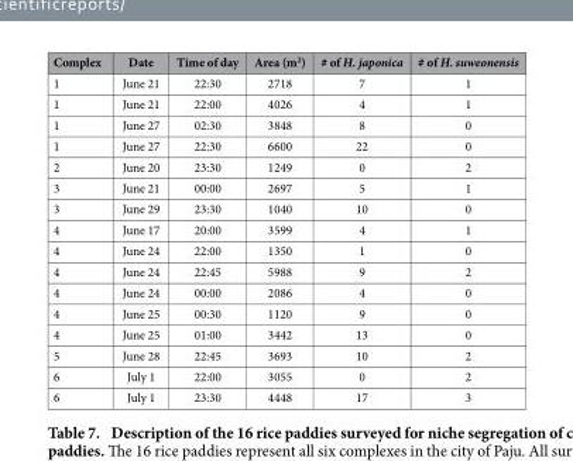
<table><thead><tr><td>Complex</td><td>Date</td><td>Time of day</td><td>Area (m<sup>2</sup>)</td><td># of H. japonica</td><td># of H. suweonensis</td></tr></thead><tbody><tr><td>1</td><td>June 21</td><td>22:30</td><td>2718</td><td>7</td><td>1</td></tr><tr><td>1</td><td>June 21</td><td>22:00</td><td>4026</td><td>4</td><td>1</td></tr><tr><td>1</td><td>June 27</td><td>02:30</td><td>3848</td><td>8</td><td>0</td></tr><tr><td>1</td><td>June 27</td><td>22:30</td><td>6600</td><td>22</td><td>0</td></tr><tr><td>2</td><td>June 20</td><td>23:30</td><td>1249</td><td>0</td><td>2</td></tr><tr><td>3</td><td>June 21</td><td>00:00</td><td>2697</td><td>5</td><td>1</td></tr><tr><td>3</td><td>June 29</td><td>23:30</td><td>1040</td><td>10</td><td>0</td></tr><tr><td>4</td><td>June 17</td><td>20:00</td><td>3599</td><td>4</td><td>1</td></tr><tr><td>4</td><td>June 24</td><td>22:00</td><td>1350</td><td>1</td><td>0</td></tr><tr><td>4</td><td>June 24</td><td>22:45</td><td>5988</td><td>9</td><td>2</td></tr><tr><td>4</td><td>June 24</td><td>00:00</td><td>2086</td><td>4</td><td>0</td></tr><tr><td>4</td><td>June 25</td><td>00:30</td><td>1120</td><td>9</td><td>0</td></tr><tr><td>4</td><td>June 25</td><td>01:00</td><td>3442</td><td>13</td><td>0</td></tr><tr><td>5</td><td>June 28</td><td>22:45</td><td>3693</td><td>10</td><td>2</td></tr><tr><td>6</td><td>July 1</td><td>22:00</td><td>3055</td><td>0</td><td>2</td></tr><tr><td>6</td><td>July 1</td><td>23:30</td><td>4448</td><td>17</td><td>3</td></tr></tbody></table>